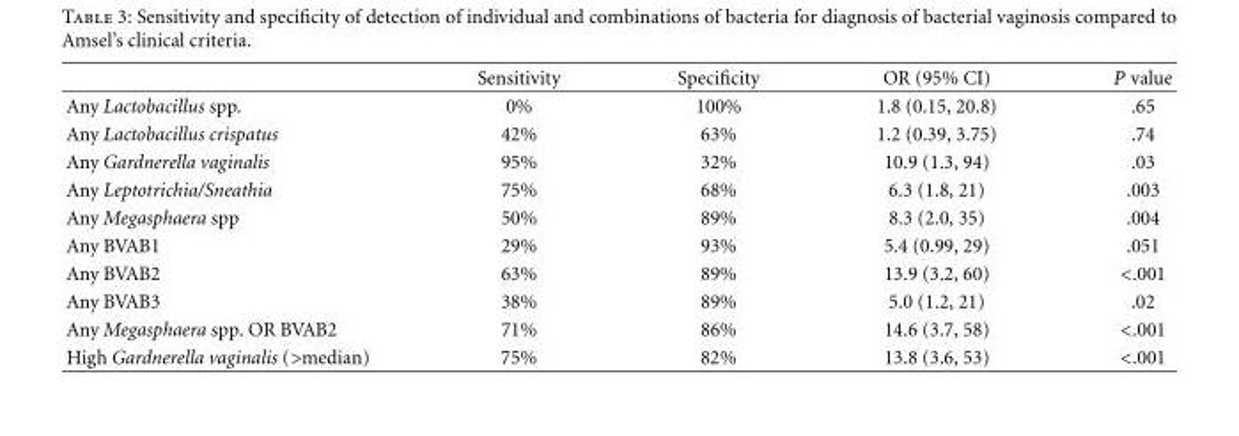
<table><thead><tr><td></td><td>Sensitivity</td><td>Specificity</td><td>OR (95% CI)</td><td>P value</td></tr></thead><tbody><tr><td>Any Lactobacillus spp.</td><td>0%</td><td>100%</td><td>1.8 (0.15, 20.8)</td><td>.65</td></tr><tr><td>Any Lactobacillus crispatus</td><td>42%</td><td>63%</td><td>1.2 (0.39, 3.75)</td><td>.74</td></tr><tr><td>Any Gardnerella vaginalis</td><td>95%</td><td>32%</td><td>10.9 (1.3, 94)</td><td>.03</td></tr><tr><td>Any Leptotrichia/Sneathia</td><td>75%</td><td>68%</td><td>6.3 (1.8, 21)</td><td>.003</td></tr><tr><td>Any Megasphaera spp</td><td>50%</td><td>89%</td><td>8.3 (2.0, 35)</td><td>.004</td></tr><tr><td>Any BVAB1</td><td>29%</td><td>93%</td><td>5.4 (0.99, 29)</td><td>.051</td></tr><tr><td>Any BVAB2</td><td>63%</td><td>89%</td><td>13.9 (3.2, 60)</td><td>&lt;.001</td></tr><tr><td>Any BVAB3</td><td>38%</td><td>89%</td><td>5.0 (1.2, 21)</td><td>.02</td></tr><tr><td>Any Megasphaera spp. OR BVAB2</td><td>71%</td><td>86%</td><td>14.6 (3.7, 58)</td><td>&lt;.001</td></tr><tr><td>High Gardnerella vaginalis (&gt;median)</td><td>75%</td><td>82%</td><td>13.8 (3.6, 53)</td><td>&lt;.001</td></tr></tbody></table>